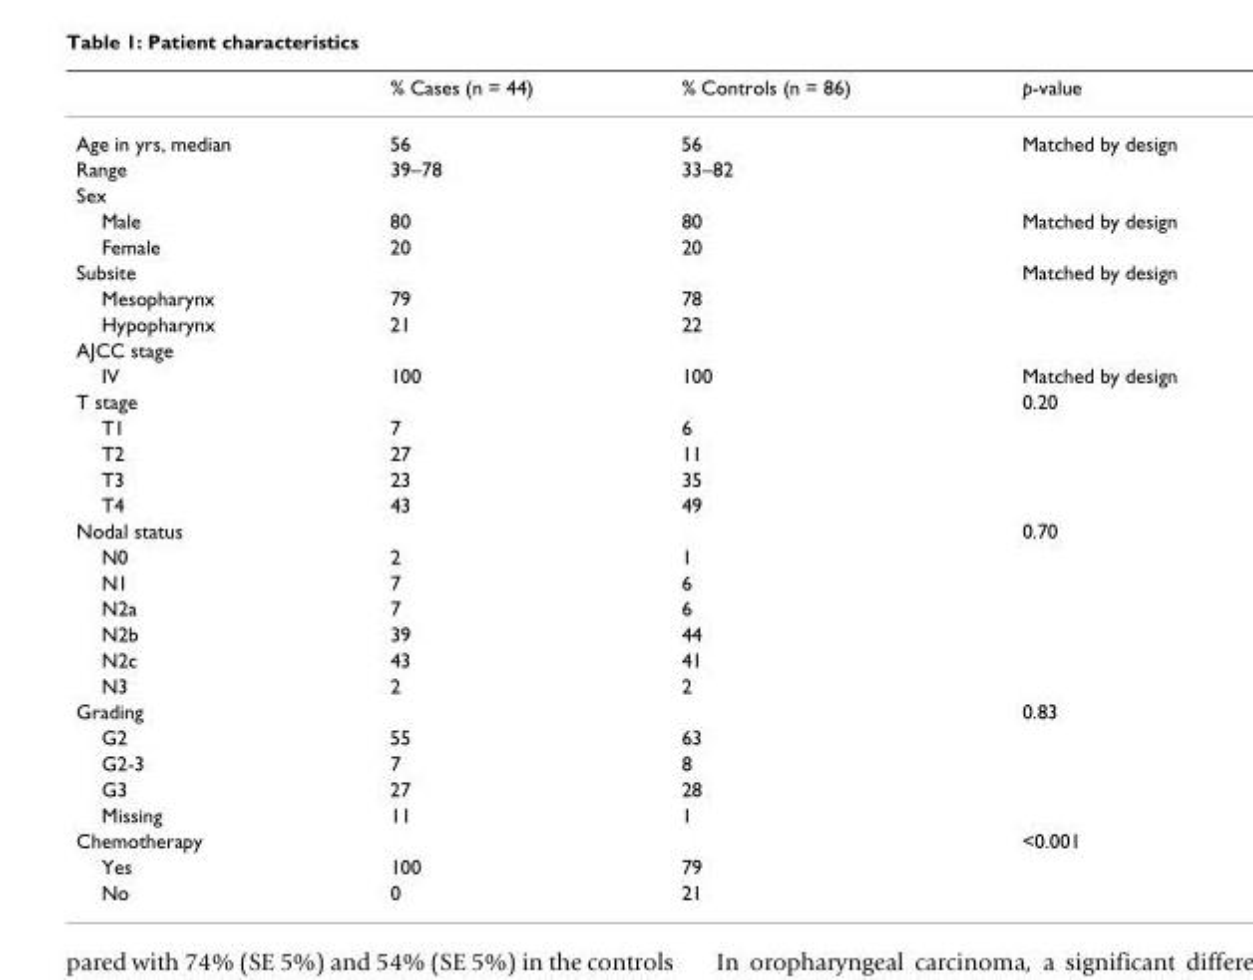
<table><thead><tr><td></td><td>% Cases (n = 44)</td><td>% Controls (n = 86)</td><td>p-value</td></tr></thead><tbody><tr><td>Age in yrs, median</td><td>56</td><td>56</td><td>Matched by design</td></tr><tr><td>Range</td><td>39–78</td><td>33–82</td><td></td></tr><tr><td colspan="4">Sex</td></tr><tr><td>Male</td><td>80</td><td>80</td><td>Matched by design</td></tr><tr><td>Female</td><td>20</td><td>20</td><td></td></tr><tr><td>Subsite</td><td></td><td></td><td>Matched by design</td></tr><tr><td>Mesopharynx</td><td>79</td><td>78</td><td></td></tr><tr><td>Hypopharynx</td><td>21</td><td>22</td><td></td></tr><tr><td colspan="4">AJCC stage</td></tr><tr><td>IV</td><td>100</td><td>100</td><td>Matched by design</td></tr><tr><td>T stage</td><td></td><td></td><td>0.20</td></tr><tr><td>T1</td><td>7</td><td>6</td><td></td></tr><tr><td>T2</td><td>27</td><td>11</td><td></td></tr><tr><td>T3</td><td>23</td><td>35</td><td></td></tr><tr><td>T4</td><td>43</td><td>49</td><td></td></tr><tr><td>Nodal status</td><td></td><td></td><td>0.70</td></tr><tr><td>N0</td><td>2</td><td>1</td><td></td></tr><tr><td>N1</td><td>7</td><td>6</td><td></td></tr><tr><td>N2a</td><td>7</td><td>6</td><td></td></tr><tr><td>N2b</td><td>39</td><td>44</td><td></td></tr><tr><td>N2c</td><td>43</td><td>41</td><td></td></tr><tr><td>N3</td><td>2</td><td>2</td><td></td></tr><tr><td>Grading</td><td></td><td></td><td>0.83</td></tr><tr><td>G2</td><td>55</td><td>63</td><td></td></tr><tr><td>G2-3</td><td>7</td><td>8</td><td></td></tr><tr><td>G3</td><td>27</td><td>28</td><td></td></tr><tr><td>Missing</td><td>11</td><td>1</td><td></td></tr><tr><td>Chemotherapy</td><td></td><td></td><td>&lt;0.001</td></tr><tr><td>Yes</td><td>100</td><td>79</td><td></td></tr><tr><td>No</td><td>0</td><td>21</td><td></td></tr></tbody></table>